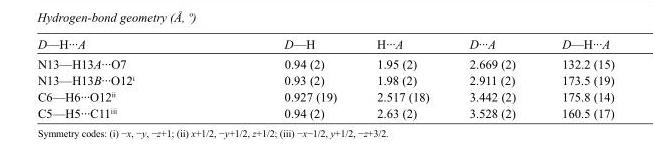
<table><tbody><tr><td>D—H···A</td><td>D—H</td><td>H···A</td><td>D···A</td><td>D—H···A</td></tr><tr><td>N13—H13A···O7</td><td>0.94 (2)</td><td>1.95 (2)</td><td>2.669 (2)</td><td>132.2 (15)</td></tr><tr><td>N13—H13B···O12<sup>i</sup></td><td>0.93 (2)</td><td>1.98 (2)</td><td>2.911 (2)</td><td>173.5 (19)</td></tr><tr><td>C6—H6···O12<sup>ii</sup></td><td>0.927 (19)</td><td>2.517 (18)</td><td>3.442 (2)</td><td>175.8 (14)</td></tr><tr><td>C5—H5···C11<sup>iii</sup></td><td>0.94 (2)</td><td>2.63 (2)</td><td>3.528 (2)</td><td>160.5 (17)</td></tr></tbody></table>